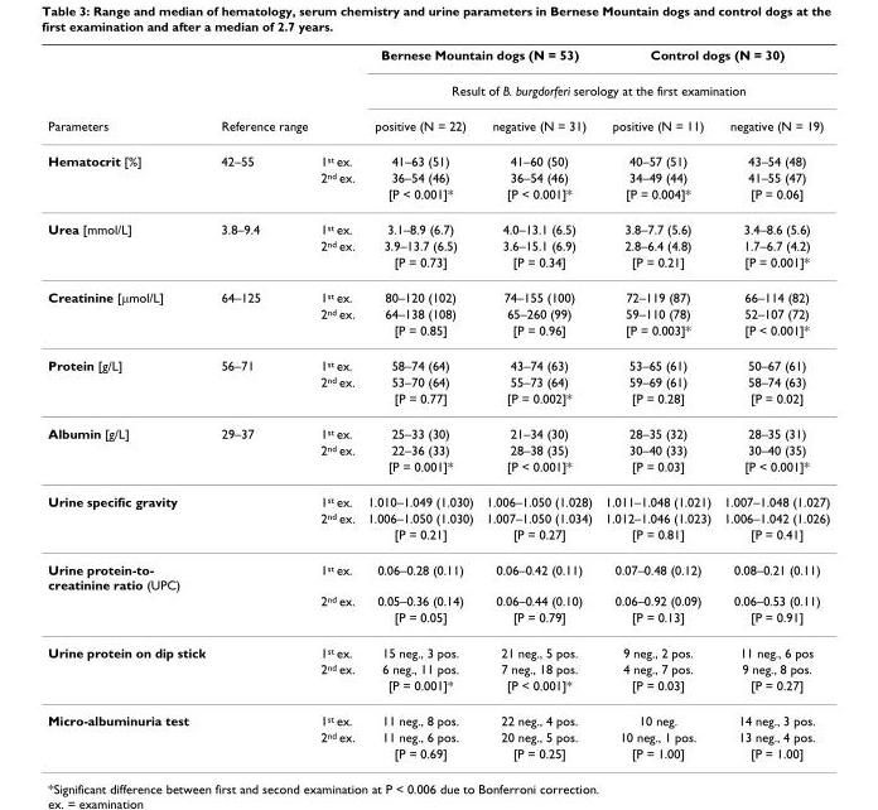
<table><thead><tr><td rowspan="3">Parameters</td><td rowspan="3">Reference range</td><td rowspan="3"></td><td colspan="2">Bernese Mountain dogs (N = 53)</td><td colspan="2">Control dogs (N = 30)</td></tr><tr><td colspan="4">Result of B. burgdorferi serology at the first examination</td></tr><tr><td>positive (N = 22)</td><td>negative (N = 31)</td><td>positive (N = 11)</td><td>negative (N = 19)</td></tr></thead><tbody><tr><td rowspan="3">Hematocrit [%]</td><td>42–55</td><td>1<sup>st</sup> ex.</td><td>41–63 (51)</td><td>41–60 (50)</td><td>40–57 (51)</td><td>43–54 (48)</td></tr><tr><td></td><td>2<sup>nd</sup> ex.</td><td>36–54 (46)</td><td>36–54 (46)</td><td>34–49 (44)</td><td>41–55 (47)</td></tr><tr><td></td><td></td><td>[P &lt; 0.001]*</td><td>[P &lt; 0.001]*</td><td>[P = 0.004]*</td><td>[P = 0.06]</td></tr><tr><td rowspan="3">Urea [mmol/L]</td><td>3.8–9.4</td><td>1<sup>st</sup> ex.</td><td>3.1–8.9 (6.7)</td><td>4.0–13.1 (6.5)</td><td>3.8–7.7 (5.6)</td><td>3.4–8.6 (5.6)</td></tr><tr><td></td><td>2<sup>nd</sup> ex.</td><td>3.9–13.7 (6.5)</td><td>3.6–15.1 (6.9)</td><td>2.8–6.4 (4.8)</td><td>1.7–6.7 (4.2)</td></tr><tr><td></td><td></td><td>[P = 0.73]</td><td>[P = 0.34]</td><td>[P = 0.21]</td><td>[P = 0.001]*</td></tr><tr><td rowspan="3">Creatinine [μmol/L]</td><td>64–125</td><td>1<sup>st</sup> ex.</td><td>80–120 (102)</td><td>74–155 (100)</td><td>72–119 (87)</td><td>66–114 (82)</td></tr><tr><td></td><td>2<sup>nd</sup> ex.</td><td>64–138 (108)</td><td>65–260 (99)</td><td>59–110 (78)</td><td>52–107 (72)</td></tr><tr><td></td><td></td><td>[P = 0.85]</td><td>[P = 0.96]</td><td>[P = 0.003]*</td><td>[P &lt; 0.001]*</td></tr><tr><td rowspan="3">Protein [g/L]</td><td>56–71</td><td>1<sup>st</sup> ex.</td><td>58–74 (64)</td><td>43–74 (63)</td><td>53–65 (61)</td><td>50–67 (61)</td></tr><tr><td></td><td>2<sup>nd</sup> ex.</td><td>53–70 (64)</td><td>55–73 (64)</td><td>59–69 (61)</td><td>58–74 (63)</td></tr><tr><td></td><td></td><td>[P = 0.77]</td><td>[P = 0.002]*</td><td>[P = 0.28]</td><td>[P = 0.02]</td></tr><tr><td rowspan="3">Albumin [g/L]</td><td>29–37</td><td>1<sup>st</sup> ex.</td><td>25–33 (30)</td><td>21–34 (30)</td><td>28–35 (32)</td><td>28–35 (31)</td></tr><tr><td></td><td>2<sup>nd</sup> ex.</td><td>22–36 (33)</td><td>28–38 (35)</td><td>30–40 (33)</td><td>30–40 (35)</td></tr><tr><td></td><td></td><td>[P = 0.001]*</td><td>[P &lt; 0.001]*</td><td>[P = 0.03]</td><td>[P &lt; 0.001]*</td></tr><tr><td rowspan="3">Urine specific gravity</td><td></td><td>1<sup>st</sup> ex.</td><td>1.010–1.049 (1.030)</td><td>1.006–1.050 (1.028)</td><td>1.011–1.048 (1.021)</td><td>1.007–1.048 (1.027)</td></tr><tr><td></td><td>2<sup>nd</sup> ex.</td><td>1.006–1.050 (1.030)</td><td>1.007–1.050 (1.034)</td><td>1.012–1.046 (1.023)</td><td>1.006–1.042 (1.026)</td></tr><tr><td></td><td></td><td>[P = 0.21]</td><td>[P = 0.27]</td><td>[P = 0.81]</td><td>[P = 0.41]</td></tr><tr><td rowspan="3">Urine protein-to- creatinine ratio (UPC)</td><td></td><td>1<sup>st</sup> ex.</td><td>0.06–0.28 (0.11)</td><td>0.06–0.42 (0.11)</td><td>0.07–0.48 (0.12)</td><td>0.08–0.21 (0.11)</td></tr><tr><td></td><td>2<sup>nd</sup> ex.</td><td>0.05–0.36 (0.14)</td><td>0.06–0.44 (0.10)</td><td>0.06–0.92 (0.09)</td><td>0.06–0.53 (0.11)</td></tr><tr><td></td><td></td><td>[P = 0.05]</td><td>[P = 0.79]</td><td>[P = 0.13]</td><td>[P = 0.91]</td></tr><tr><td rowspan="3">Urine protein on dip stick</td><td></td><td>1<sup>st</sup> ex.</td><td>15 neg., 3 pos.</td><td>21 neg., 5 pos.</td><td>9 neg., 2 pos.</td><td>11 neg., 6 pos</td></tr><tr><td></td><td>2<sup>nd</sup> ex.</td><td>6 neg., 11 pos.</td><td>7 neg., 18 pos.</td><td>4 neg., 7 pos.</td><td>9 neg., 8 pos.</td></tr><tr><td></td><td></td><td>[P = 0.001]*</td><td>[P &lt; 0.001]*</td><td>[P = 0.03]</td><td>[P = 0.27]</td></tr><tr><td rowspan="3">Micro-albuminuria test</td><td></td><td>1<sup>st</sup> ex.</td><td>11 neg., 8 pos.</td><td>22 neg., 4 pos.</td><td>10 neg.</td><td>14 neg., 3 pos.</td></tr><tr><td></td><td>2<sup>nd</sup> ex.</td><td>11 neg., 6 pos.</td><td>20 neg., 5 pos.</td><td>10 neg., 1 pos.</td><td>13 neg., 4 pos.</td></tr><tr><td></td><td></td><td>[P = 0.69]</td><td>[P = 0.25]</td><td>[P = 1.00]</td><td>[P = 1.00]</td></tr></tbody></table>